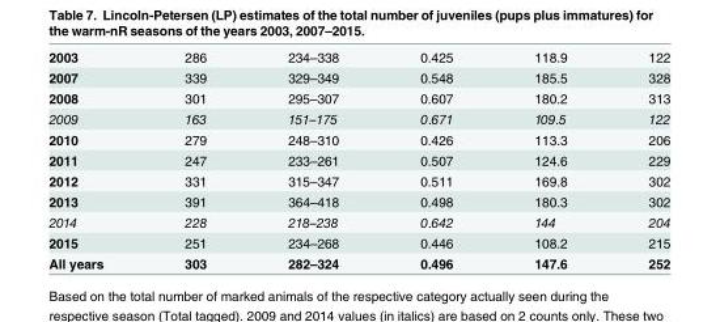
<table><tbody><tr><td>2003</td><td>286</td><td>234–338</td><td>0.425</td><td>118.9</td><td>122</td></tr><tr><td>2007</td><td>339</td><td>329–349</td><td>0.548</td><td>185.5</td><td>328</td></tr><tr><td>2008</td><td>301</td><td>295–307</td><td>0.607</td><td>180.2</td><td>313</td></tr><tr><td>2009</td><td>163</td><td>151–175</td><td>0.671</td><td>109.5</td><td>122</td></tr><tr><td>2010</td><td>279</td><td>248–310</td><td>0.426</td><td>113.3</td><td>206</td></tr><tr><td>2011</td><td>247</td><td>233–261</td><td>0.507</td><td>124.6</td><td>229</td></tr><tr><td>2012</td><td>331</td><td>315–347</td><td>0.511</td><td>169.8</td><td>302</td></tr><tr><td>2013</td><td>391</td><td>364–418</td><td>0.498</td><td>180.3</td><td>302</td></tr><tr><td>2014</td><td>228</td><td>218–238</td><td>0.642</td><td>144</td><td>204</td></tr><tr><td>2015</td><td>251</td><td>234–268</td><td>0.446</td><td>108.2</td><td>215</td></tr><tr><td>All years</td><td>303</td><td>282–324</td><td>0.496</td><td>147.6</td><td>252</td></tr></tbody></table>